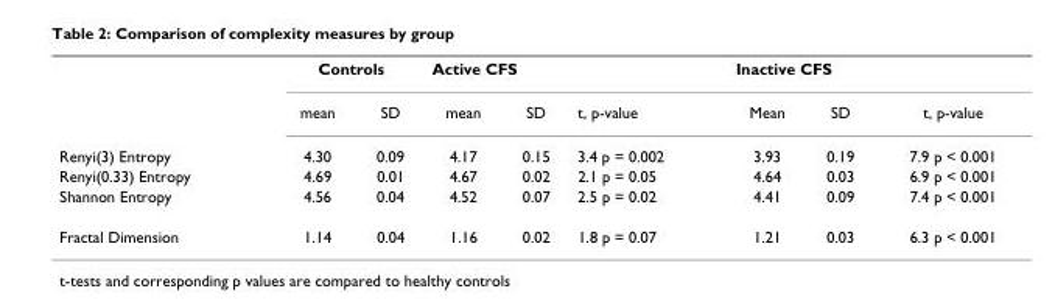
<table><thead><tr><td rowspan="2"></td><td colspan="2">Controls</td><td colspan="3">Active CFS</td><td colspan="3">Inactive CFS</td></tr><tr><td>mean</td><td>SD</td><td>mean</td><td>SD</td><td>t, p-value</td><td>Mean</td><td>SD</td><td>t, p-value</td></tr></thead><tbody><tr><td>Renyi(3) Entropy</td><td>4.30</td><td>0.09</td><td>4.17</td><td>0.15</td><td>3.4 p = 0.002</td><td>3.93</td><td>0.19</td><td>7.9 p &lt; 0.001</td></tr><tr><td>Renyi(0.33) Entropy</td><td>4.69</td><td>0.01</td><td>4.67</td><td>0.02</td><td>2.1 p = 0.05</td><td>4.64</td><td>0.03</td><td>6.9 p &lt; 0.001</td></tr><tr><td>Shannon Entropy</td><td>4.56</td><td>0.04</td><td>4.52</td><td>0.07</td><td>2.5 p = 0.02</td><td>4.41</td><td>0.09</td><td>7.4 p &lt; 0.001</td></tr><tr><td>Fractal Dimension</td><td>1.14</td><td>0.04</td><td>1.16</td><td>0.02</td><td>1.8 p = 0.07</td><td>1.21</td><td>0.03</td><td>6.3 p &lt; 0.001</td></tr></tbody></table>